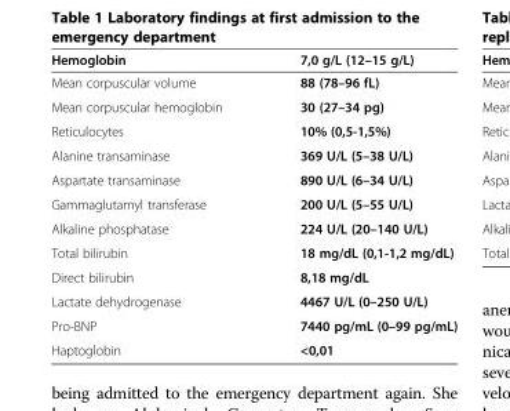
<table><thead><tr><td>Hemoglobin</td><td>7,0 g/L (12–15 g/L)</td></tr></thead><tbody><tr><td>Mean corpuscular volume</td><td>88 (78–96 fL)</td></tr><tr><td>Mean corpuscular hemoglobin</td><td>30 (27–34 pg)</td></tr><tr><td>Reticulocytes</td><td>10% (0,5-1,5%)</td></tr><tr><td>Alanine transaminase</td><td>369 U/L (5–38 U/L)</td></tr><tr><td>Aspartate transaminase</td><td>890 U/L (6–34 U/L)</td></tr><tr><td>Gammaglutamyl transferase</td><td>200 U/L (5–55 U/L)</td></tr><tr><td>Alkaline phosphatase</td><td>224 U/L (20–140 U/L)</td></tr><tr><td>Total bilirubin</td><td>18 mg/dL (0,1-1,2 mg/dL)</td></tr><tr><td>Direct bilirubin</td><td>8,18 mg/dL</td></tr><tr><td>Lactate dehydrogenase</td><td>4467 U/L (0–250 U/L)</td></tr><tr><td>Pro-BNP</td><td>7440 pg/mL (0–99 pg/mL)</td></tr><tr><td>Haptoglobin</td><td>&lt;0,01</td></tr></tbody></table>